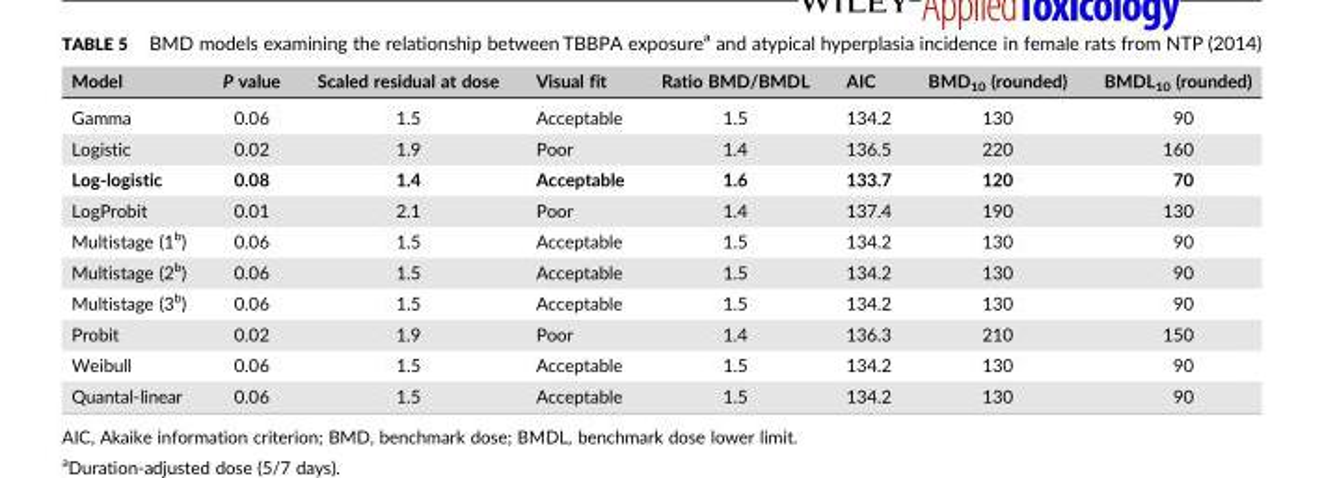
<table><thead><tr><td>Model</td><td>P value</td><td>Scaled residual at dose</td><td>Visual fit</td><td>Ratio BMD/BMDL</td><td>AIC</td><td>BMD<sub>10</sub> (rounded)</td><td>BMDL<sub>10</sub> (rounded)</td></tr></thead><tbody><tr><td>Gamma</td><td>0.06</td><td>1.5</td><td>Acceptable</td><td>1.5</td><td>134.2</td><td>130</td><td>90</td></tr><tr><td>Logistic</td><td>0.02</td><td>1.9</td><td>Poor</td><td>1.4</td><td>136.5</td><td>220</td><td>160</td></tr><tr><td>Log‐logistic</td><td>0.08</td><td>1.4</td><td>Acceptable</td><td>1.6</td><td>133.7</td><td>120</td><td>70</td></tr><tr><td>LogProbit</td><td>0.01</td><td>2.1</td><td>Poor</td><td>1.4</td><td>137.4</td><td>190</td><td>130</td></tr><tr><td>Multistage (1<sup>b</sup>)</td><td>0.06</td><td>1.5</td><td>Acceptable</td><td>1.5</td><td>134.2</td><td>130</td><td>90</td></tr><tr><td>Multistage (2<sup>b</sup>)</td><td>0.06</td><td>1.5</td><td>Acceptable</td><td>1.5</td><td>134.2</td><td>130</td><td>90</td></tr><tr><td>Multistage (3<sup>b</sup>)</td><td>0.06</td><td>1.5</td><td>Acceptable</td><td>1.5</td><td>134.2</td><td>130</td><td>90</td></tr><tr><td>Probit</td><td>0.02</td><td>1.9</td><td>Poor</td><td>1.4</td><td>136.3</td><td>210</td><td>150</td></tr><tr><td>Weibull</td><td>0.06</td><td>1.5</td><td>Acceptable</td><td>1.5</td><td>134.2</td><td>130</td><td>90</td></tr><tr><td>Quantal‐linear</td><td>0.06</td><td>1.5</td><td>Acceptable</td><td>1.5</td><td>134.2</td><td>130</td><td>90</td></tr></tbody></table>